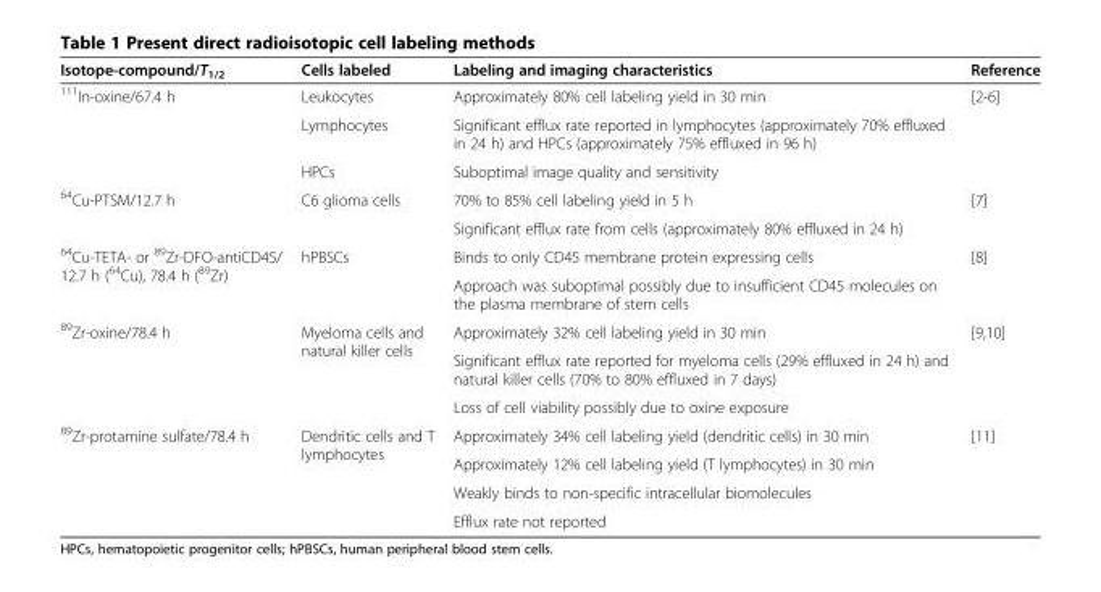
<table><thead><tr><td>Isotope-compound/T<sub>1/2</sub></td><td>Cells labeled</td><td>Labeling and imaging characteristics</td><td>Reference</td></tr></thead><tbody><tr><td rowspan="3"><sup>111</sup>In-oxine/67.4 h</td><td>Leukocytes</td><td>Approximately 80% cell labeling yield in 30 min</td><td rowspan="3">[2-6]</td></tr><tr><td>Lymphocytes</td><td>Significant efflux rate reported in lymphocytes (approximately 70% effluxed in 24 h) and HPCs (approximately 75% effluxed in 96 h)</td></tr><tr><td>HPCs</td><td>Suboptimal image quality and sensitivity</td></tr><tr><td rowspan="2"><sup>64</sup>Cu-PTSM/12.7 h</td><td rowspan="2">C6 glioma cells</td><td>70% to 85% cell labeling yield in 5 h</td><td rowspan="2">[7]</td></tr><tr><td>Significant efflux rate from cells (approximately 80% effluxed in 24 h)</td></tr><tr><td rowspan="2"><sup>64</sup>Cu-TETA- or <sup>89</sup>Zr-DFO-antiCD45/ 12.7 h (<sup>64</sup>Cu), 78.4 h (<sup>89</sup>Zr)</td><td rowspan="2">hPBSCs</td><td>Binds to only CD45 membrane protein expressing cells</td><td rowspan="2">[8]</td></tr><tr><td>Approach was suboptimal possibly due to insufficient CD45 molecules on the plasma membrane of stem cells</td></tr><tr><td rowspan="3"><sup>89</sup>Zr-oxine/78.4 h</td><td rowspan="3">Myeloma cells and natural killer cells</td><td>Approximately 32% cell labeling yield in 30 min</td><td rowspan="3">[9,10]</td></tr><tr><td>Significant efflux rate reported for myeloma cells (29% effluxed in 24 h) and natural killer cells (70% to 80% effluxed in 7 days)</td></tr><tr><td>Loss of cell viability possibly due to oxine exposure</td></tr><tr><td rowspan="4"><sup>89</sup>Zr-protamine sulfate/78.4 h</td><td rowspan="4">Dendritic cells and T lymphocytes</td><td>Approximately 34% cell labeling yield (dendritic cells) in 30 min</td><td rowspan="4">[11]</td></tr><tr><td>Approximately 12% cell labeling yield (T lymphocytes) in 30 min</td></tr><tr><td>Weakly binds to non-specific intracellular biomolecules</td></tr><tr><td>Efflux rate not reported</td></tr></tbody></table>